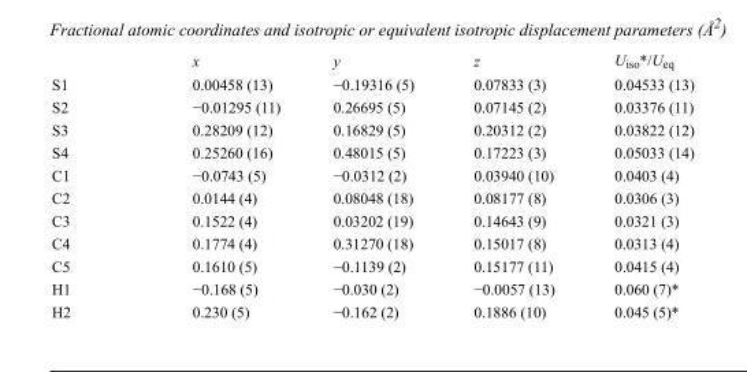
<table><thead><tr><td></td><td>x</td><td>y</td><td>z</td><td>U<sub>iso</sub>*/U<sub>eq</sub></td></tr></thead><tbody><tr><td>S1</td><td>0.00458 (13)</td><td>−0.19316 (5)</td><td>0.07833 (3)</td><td>0.04533 (13)</td></tr><tr><td>S2</td><td>−0.01295 (11)</td><td>0.26695 (5)</td><td>0.07145 (2)</td><td>0.03376 (11)</td></tr><tr><td>S3</td><td>0.28209 (12)</td><td>0.16829 (5)</td><td>0.20312 (2)</td><td>0.03822 (12)</td></tr><tr><td>S4</td><td>0.25260 (16)</td><td>0.48015 (5)</td><td>0.17223 (3)</td><td>0.05033 (14)</td></tr><tr><td>C1</td><td>−0.0743 (5)</td><td>−0.0312 (2)</td><td>0.03940 (10)</td><td>0.0403 (4)</td></tr><tr><td>C2</td><td>0.0144 (4)</td><td>0.08048 (18)</td><td>0.08177 (8)</td><td>0.0306 (3)</td></tr><tr><td>C3</td><td>0.1522 (4)</td><td>0.03202 (19)</td><td>0.14643 (9)</td><td>0.0321 (3)</td></tr><tr><td>C4</td><td>0.1774 (4)</td><td>0.31270 (18)</td><td>0.15017 (8)</td><td>0.0313 (4)</td></tr><tr><td>C5</td><td>0.1610 (5)</td><td>−0.1139 (2)</td><td>0.15177 (11)</td><td>0.0415 (4)</td></tr><tr><td>H1</td><td>−0.168 (5)</td><td>−0.030 (2)</td><td>−0.0057 (13)</td><td>0.060 (7)*</td></tr><tr><td>H2</td><td>0.230 (5)</td><td>−0.162 (2)</td><td>0.1886 (10)</td><td>0.045 (5)*</td></tr></tbody></table>